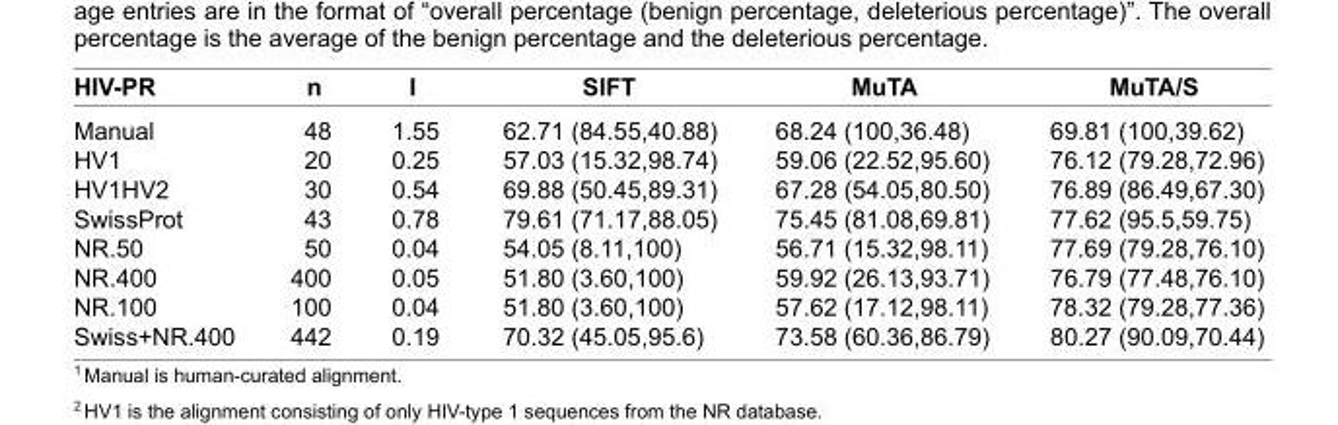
<table><thead><tr><td>HIV-PR</td><td>n</td><td>I</td><td>SIFT</td><td>MuTA</td><td>MuTA/S</td></tr></thead><tbody><tr><td>Manual</td><td>48</td><td>1.55</td><td>62.71 (84.55,40.88)</td><td>68.24 (100,36.48)</td><td>69.81 (100,39.62)</td></tr><tr><td>HV1</td><td>20</td><td>0.25</td><td>57.03 (15.32,98.74)</td><td>59.06 (22.52,95.60)</td><td>76.12 (79.28,72.96)</td></tr><tr><td>HV1HV2</td><td>30</td><td>0.54</td><td>69.88 (50.45,89.31)</td><td>67.28 (54.05,80.50)</td><td>76.89 (86.49,67.30)</td></tr><tr><td>SwissProt</td><td>43</td><td>0.78</td><td>79.61 (71.17,88.05)</td><td>75.45 (81.08,69.81)</td><td>77.62 (95.5,59.75)</td></tr><tr><td>NR.50</td><td>50</td><td>0.04</td><td>54.05 (8.11,100)</td><td>56.71 (15.32,98.11)</td><td>77.69 (79.28,76.10)</td></tr><tr><td>NR.400</td><td>400</td><td>0.05</td><td>51.80 (3.60,100)</td><td>59.92 (26.13,93.71)</td><td>76.79 (77.48,76.10)</td></tr><tr><td>NR.100</td><td>100</td><td>0.04</td><td>51.80 (3.60,100)</td><td>57.62 (17.12,98.11)</td><td>78.32 (79.28,77.36)</td></tr><tr><td>Swiss+NR.400</td><td>442</td><td>0.19</td><td>70.32 (45.05,95.6)</td><td>73.58 (60.36,86.79)</td><td>80.27 (90.09,70.44)</td></tr></tbody></table>